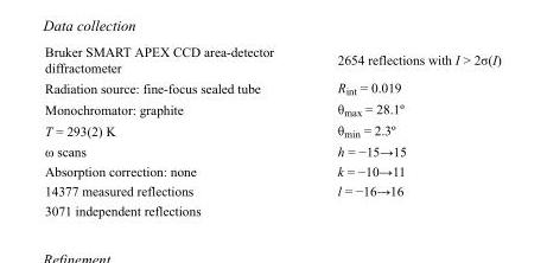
<table><tbody><tr><td>Bruker SMART APEX CCD area-detector diffractometer</td><td>2654 reflections with I &gt; 2σ(I)</td></tr><tr><td>Radiation source: fine-focus sealed tube</td><td>R<sub>int</sub> = 0.019</td></tr><tr><td>Monochromator: graphite</td><td>θ<sub>max</sub> = 28.1º</td></tr><tr><td>T = 293(2) K</td><td>θ<sub>min</sub> = 2.3º</td></tr><tr><td>ω scans</td><td>h = −15→15</td></tr><tr><td>Absorption correction: none</td><td>k = −10→11</td></tr><tr><td>14377 measured reflections</td><td>l = −16→16</td></tr><tr><td>3071 independent reflections</td><td></td></tr></tbody></table>